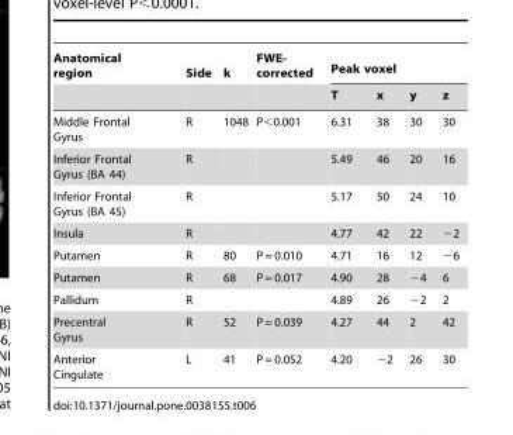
<table><thead><tr><td rowspan="2">Anatomical region</td><td rowspan="2">Side</td><td rowspan="2">k</td><td rowspan="2">FWE- corrected</td><td colspan="4">Peak voxel</td></tr><tr><td>T</td><td>x</td><td>y</td><td>z</td></tr></thead><tbody><tr><td>Middle Frontal Gyrus</td><td>R</td><td>1048</td><td>P&lt;0.001</td><td>6.31</td><td>38</td><td>30</td><td>30</td></tr><tr><td>Inferior Frontal Gyrus (BA 44)</td><td>R</td><td></td><td></td><td>5.49</td><td>46</td><td>20</td><td>16</td></tr><tr><td>Inferior Frontal Gyrus (BA 45)</td><td>R</td><td></td><td></td><td>5.17</td><td>50</td><td>24</td><td>10</td></tr><tr><td>Insula</td><td>R</td><td></td><td></td><td>4.77</td><td>42</td><td>22</td><td>−2</td></tr><tr><td>Putamen</td><td>R</td><td>80</td><td>P = 0.010</td><td>4.71</td><td>16</td><td>12</td><td>−6</td></tr><tr><td>Putamen</td><td>R</td><td>68</td><td>P = 0.017</td><td>4.90</td><td>28</td><td>−4</td><td>6</td></tr><tr><td>Pallidum</td><td>R</td><td></td><td></td><td>4.89</td><td>26</td><td>−2</td><td>2</td></tr><tr><td>Precentral Gyrus</td><td>R</td><td>52</td><td>P = 0.039</td><td>4.27</td><td>44</td><td>2</td><td>42</td></tr><tr><td>Anterior Cingulate</td><td>L</td><td>41</td><td>P = 0.052</td><td>4.20</td><td>−2</td><td>26</td><td>30</td></tr></tbody></table>